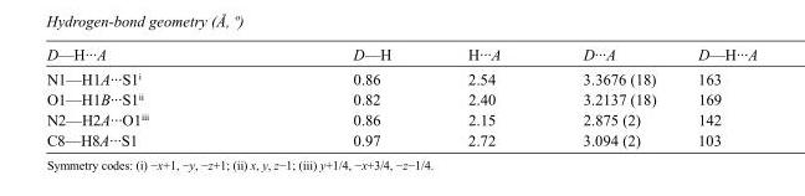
<table><tbody><tr><td>D—H···A</td><td>D—H</td><td>H···A</td><td>D···A</td><td>D—H···A</td></tr><tr><td>N1—H1A···S1<sup>i</sup></td><td>0.86</td><td>2.54</td><td>3.3676 (18)</td><td>163</td></tr><tr><td>O1—H1B···S1<sup>ii</sup></td><td>0.82</td><td>2.40</td><td>3.2137 (18)</td><td>169</td></tr><tr><td>N2—H2A···O1<sup>iii</sup></td><td>0.86</td><td>2.15</td><td>2.875 (2)</td><td>142</td></tr><tr><td>C8—H8A···S1</td><td>0.97</td><td>2.72</td><td>3.094 (2)</td><td>103</td></tr></tbody></table>